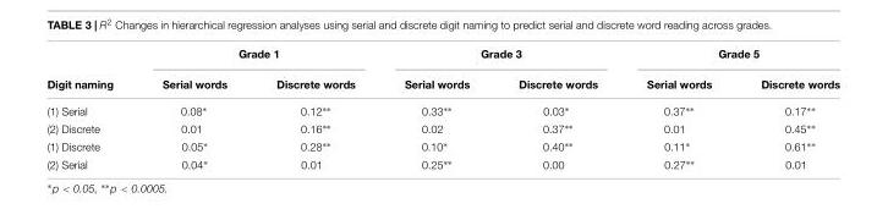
<table><thead><tr><td rowspan="2">Digit naming</td><td colspan="2">Grade 1</td><td colspan="2">Grade 3</td><td colspan="2">Grade 5</td></tr><tr><td>Serial words</td><td>Discrete words</td><td>Serial words</td><td>Discrete words</td><td>Serial words</td><td>Discrete words</td></tr></thead><tbody><tr><td>(1) Serial</td><td>0.08∗</td><td>0.12∗∗</td><td>0.33∗∗</td><td>0.03∗</td><td>0.37∗∗</td><td>0.17∗∗</td></tr><tr><td>(2) Discrete</td><td>0.01</td><td>0.16∗∗</td><td>0.02</td><td>0.37∗∗</td><td>0.01</td><td>0.45∗∗</td></tr><tr><td>(1) Discrete</td><td>0.05∗</td><td>0.28∗∗</td><td>0.10∗</td><td>0.40∗∗</td><td>0.11∗</td><td>0.61∗∗</td></tr><tr><td>(2) Serial</td><td>0.04∗</td><td>0.01</td><td>0.25∗∗</td><td>0.00</td><td>0.27∗∗</td><td>0.01</td></tr></tbody></table>